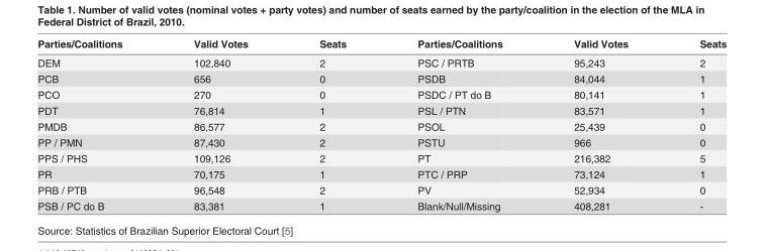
<table><thead><tr><td>Parties/Coalitions</td><td>Valid Votes</td><td>Seats</td><td>Parties/Coalitions</td><td>Valid Votes</td><td>Seats</td></tr></thead><tbody><tr><td>DEM</td><td>102,840</td><td>2</td><td>PSC / PRTB</td><td>95,243</td><td>2</td></tr><tr><td>PCB</td><td>656</td><td>0</td><td>PSDB</td><td>84,044</td><td>1</td></tr><tr><td>PCO</td><td>270</td><td>0</td><td>PSDC / PT do B</td><td>80,141</td><td>1</td></tr><tr><td>PDT</td><td>76,814</td><td>1</td><td>PSL / PTN</td><td>83,571</td><td>1</td></tr><tr><td>PMDB</td><td>86,577</td><td>2</td><td>PSOL</td><td>25,439</td><td>0</td></tr><tr><td>PP / PMN</td><td>87,430</td><td>2</td><td>PSTU</td><td>966</td><td>0</td></tr><tr><td>PPS / PHS</td><td>109,126</td><td>2</td><td>PT</td><td>216,382</td><td>5</td></tr><tr><td>PR</td><td>70,175</td><td>1</td><td>PTC / PRP</td><td>73,124</td><td>1</td></tr><tr><td>PRB / PTB</td><td>96,548</td><td>2</td><td>PV</td><td>52,934</td><td>0</td></tr><tr><td>PSB / PC do B</td><td>83,381</td><td>1</td><td>Blank/Null/Missing</td><td>408,281</td><td>-</td></tr></tbody></table>